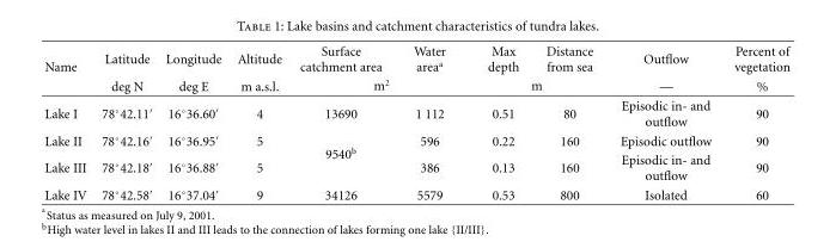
<table><thead><tr><td rowspan="2">Name</td><td rowspan="2">Latitude deg N</td><td rowspan="2">Longitude deg E</td><td rowspan="2">Altitude m a.s.l.</td><td>Surface catchment area</td><td>Water area<sup>a</sup></td><td>Max depth</td><td>Distance from sea</td><td rowspan="2">Outflow —</td><td rowspan="2">Percent of vegetation %</td></tr><tr><td colspan="2">m<sup>2</sup></td><td colspan="2">m</td></tr></thead><tbody><tr><td>Lake I</td><td>78◦42.11′</td><td>16◦36.60′</td><td>4</td><td>13690</td><td>1 112</td><td>0.51</td><td>80</td><td>Episodic in- and outflow</td><td>90</td></tr><tr><td>Lake II</td><td>78◦42.16′</td><td>16◦36.95′</td><td>5</td><td rowspan="2">9540<sup>b</sup></td><td>596</td><td>0.22</td><td>160</td><td>Episodic outflow</td><td>90</td></tr><tr><td>Lake III</td><td>78◦42.18′</td><td>16◦36.88′</td><td>5</td><td>386</td><td>0.13</td><td>160</td><td>Episodic in- and outflow</td><td>90</td></tr><tr><td>Lake IV</td><td>78◦42.58′</td><td>16◦37.04′</td><td>9</td><td>34126</td><td>5579</td><td>0.53</td><td>800</td><td>Isolated</td><td>60</td></tr></tbody></table>